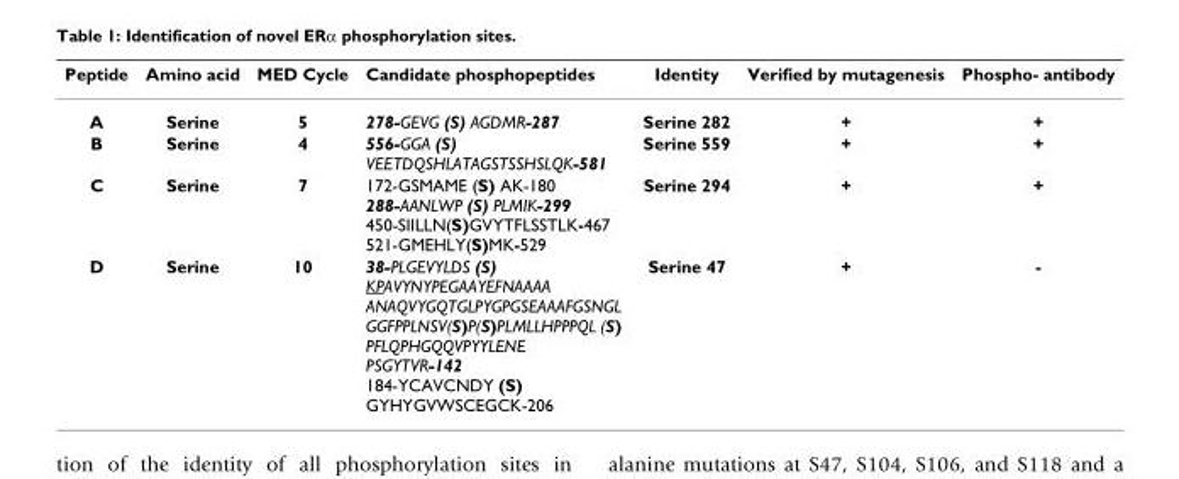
<table><thead><tr><td>Peptide</td><td>Amino acid</td><td>MED Cycle</td><td>Candidate phosphopeptides</td><td>Identity</td><td>Verified by mutagenesis</td><td>Phospho- antibody</td></tr></thead><tbody><tr><td>A</td><td>Serine</td><td>5</td><td>278-GEVG (S) AGDMR-287</td><td>Serine 282</td><td>+</td><td>+</td></tr><tr><td>B</td><td>Serine</td><td>4</td><td>556-GGA (S) VEETDQSHLATAGSTSSHSLQK-581</td><td>Serine 559</td><td>+</td><td>+</td></tr><tr><td>C</td><td>Serine</td><td>7</td><td>172-GSMAME (S) AK-180 288-AANLWP (S) PLMIK-299 450-SIILLN(S)GVYTFLSSTLK-467 521-GMEHLY(S)MK-529</td><td>Serine 294</td><td>+</td><td>+</td></tr><tr><td>D</td><td>Serine</td><td>10</td><td>38-PLGEVYLDS (S) KPAVYNYPEGAAYEFNAAAA ANAQVYGQTGLPYGPGSEAAAFGSNGL GGFPPLNSV(S)P(S)PLMLLHPPPQL (S) PFLQPHGQQVPYYLENE PSGYTVR-142 184-YCAVCNDY (S) GYHYGVWSCEGCK-206</td><td>Serine 47</td><td>+</td><td>-</td></tr></tbody></table>